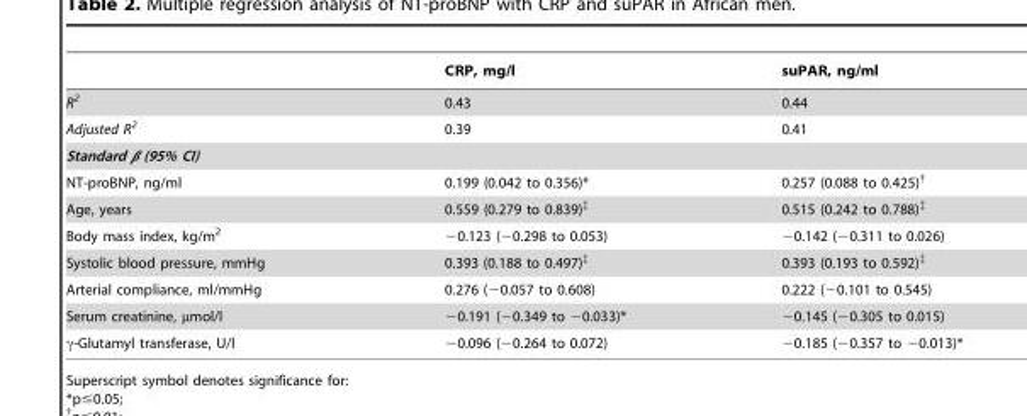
<table><thead><tr><td></td><td>CRP, mg/l</td><td>suPAR, ng/ml</td></tr></thead><tbody><tr><td>R<sup>2</sup></td><td>0.43</td><td>0.44</td></tr><tr><td>Adjusted R<sup>2</sup></td><td>0.39</td><td>0.41</td></tr><tr><td colspan="3">Standard β (95% CI)</td></tr><tr><td>NT-proBNP, ng/ml</td><td>0.199 (0.042 to 0.356)*</td><td>0.257 (0.088 to 0.425)†</td></tr><tr><td>Age, years</td><td>0.559 (0.279 to 0.839)‡</td><td>0.515 (0.242 to 0.788)‡</td></tr><tr><td>Body mass index, kg/m<sup>2</sup></td><td>−0.123 (−0.298 to 0.053)</td><td>−0.142 (−0.311 to 0.026)</td></tr><tr><td>Systolic blood pressure, mmHg</td><td>0.393 (0.188 to 0.497)‡</td><td>0.393 (0.193 to 0.592)‡</td></tr><tr><td>Arterial compliance, ml/mmHg</td><td>0.276 (−0.057 to 0.608)</td><td>0.222 (−0.101 to 0.545)</td></tr><tr><td>Serum creatinine, µmol/l</td><td>−0.191 (−0.349 to −0.033)*</td><td>−0.145 (−0.305 to 0.015)</td></tr><tr><td>γ-Glutamyl transferase, U/l</td><td>−0.096 (−0.264 to 0.072)</td><td>−0.185 (−0.357 to −0.013)*</td></tr></tbody></table>